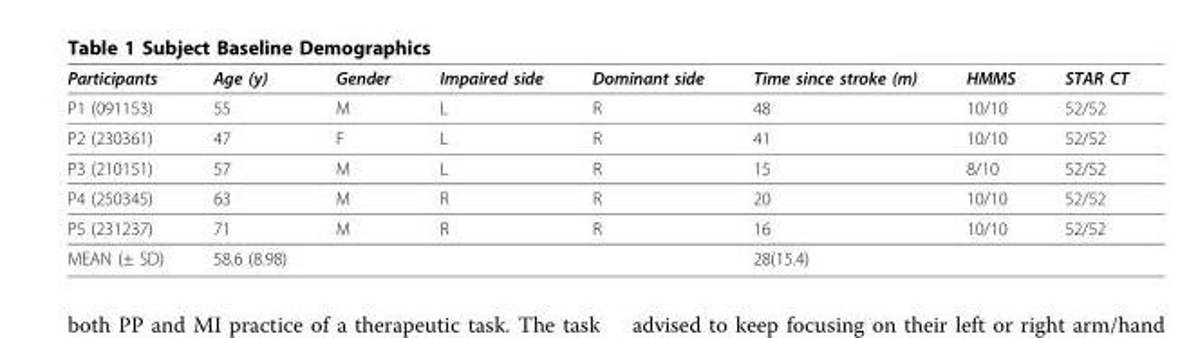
<table><thead><tr><td>Participants</td><td>Age (y)</td><td>Gender</td><td>Impaired side</td><td>Dominant side</td><td>Time since stroke (m)</td><td>HMMS</td><td>STAR CT</td></tr></thead><tbody><tr><td>P1 (091153)</td><td>55</td><td>M</td><td>L</td><td>R</td><td>48</td><td>10/10</td><td>52/52</td></tr><tr><td>P2 (230361)</td><td>47</td><td>F</td><td>L</td><td>R</td><td>41</td><td>10/10</td><td>52/52</td></tr><tr><td>P3 (210151)</td><td>57</td><td>M</td><td>L</td><td>R</td><td>15</td><td>8/10</td><td>52/52</td></tr><tr><td>P4 (250345)</td><td>63</td><td>M</td><td>R</td><td>R</td><td>20</td><td>10/10</td><td>52/52</td></tr><tr><td>P5 (231237)</td><td>71</td><td>M</td><td>R</td><td>R</td><td>16</td><td>10/10</td><td>52/52</td></tr><tr><td>MEAN (± SD)</td><td>58.6 (8.98)</td><td></td><td></td><td></td><td>28(15.4)</td><td></td><td></td></tr></tbody></table>